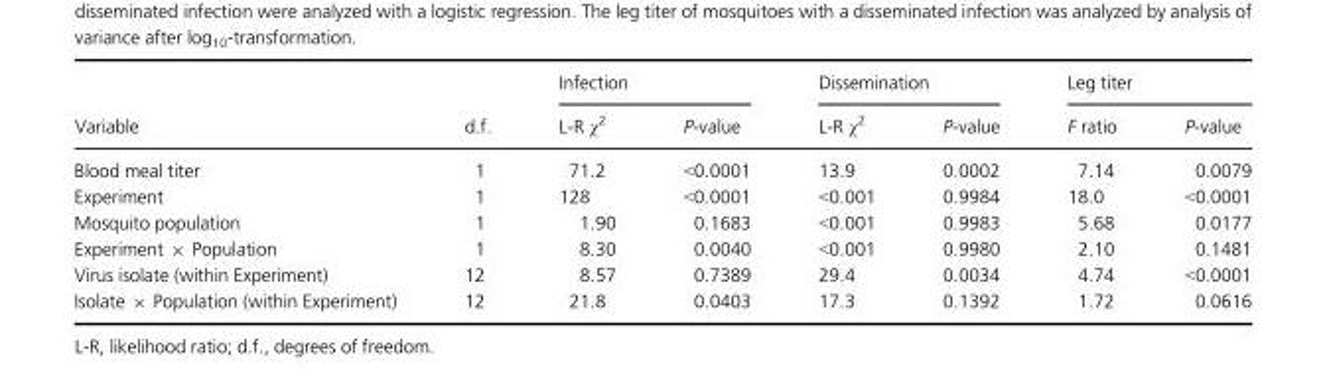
<table><thead><tr><td rowspan="2">Variable</td><td rowspan="2">d.f.</td><td colspan="2">Infection</td><td colspan="2">Dissemination</td><td colspan="2">Leg titer</td></tr><tr><td>L-R χ<sup>2</sup></td><td>P-value</td><td>L-R χ<sup>2</sup></td><td>P-value</td><td>F ratio</td><td>P-value</td></tr></thead><tbody><tr><td>Blood meal titer</td><td>1</td><td>71.2</td><td>&lt;0.0001</td><td>13.9</td><td>0.0002</td><td>7.14</td><td>0.0079</td></tr><tr><td>Experiment</td><td>1</td><td>128</td><td>&lt;0.0001</td><td>&lt;0.001</td><td>0.9984</td><td>18.0</td><td>&lt;0.0001</td></tr><tr><td>Mosquito population</td><td>1</td><td>1.90</td><td>0.1683</td><td>&lt;0.001</td><td>0.9983</td><td>5.68</td><td>0.0177</td></tr><tr><td>Experiment × Population</td><td>1</td><td>8.30</td><td>0.0040</td><td>&lt;0.001</td><td>0.9980</td><td>2.10</td><td>0.1481</td></tr><tr><td>Virus isolate (within Experiment)</td><td>12</td><td>8.57</td><td>0.7389</td><td>29.4</td><td>0.0034</td><td>4.74</td><td>&lt;0.0001</td></tr><tr><td>Isolate × Population (within Experiment)</td><td>12</td><td>21.8</td><td>0.0403</td><td>17.3</td><td>0.1392</td><td>1.72</td><td>0.0616</td></tr></tbody></table>